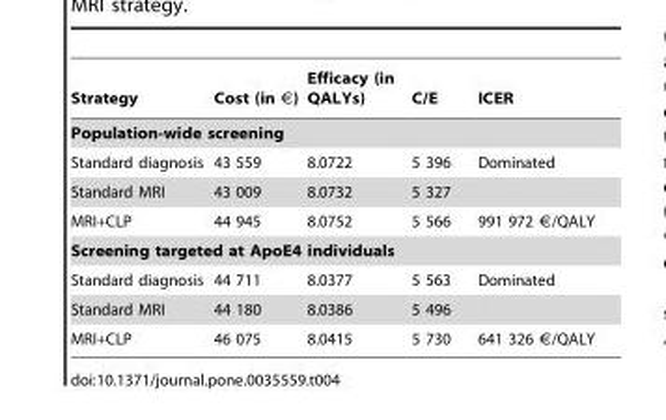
<table><thead><tr><td>Strategy</td><td>Cost (in €)</td><td>Efficacy (in QALYs)</td><td>C/E</td><td>ICER</td></tr></thead><tbody><tr><td colspan="5">Population-wide screening</td></tr><tr><td>Standard diagnosis</td><td>43 559</td><td>8.0722</td><td>5 396</td><td>Dominated</td></tr><tr><td>Standard MRI</td><td>43 009</td><td>8.0732</td><td>5 327</td><td></td></tr><tr><td>MRI+CLP</td><td>44 945</td><td>8.0752</td><td>5 566</td><td>991 972 €/QALY</td></tr><tr><td colspan="5">Screening targeted at ApoE4 individuals</td></tr><tr><td>Standard diagnosis</td><td>44 711</td><td>8.0377</td><td>5 563</td><td>Dominated</td></tr><tr><td>Standard MRI</td><td>44 180</td><td>8.0386</td><td>5 496</td><td></td></tr><tr><td>MRI+CLP</td><td>46 075</td><td>8.0415</td><td>5 730</td><td>641 326 €/QALY</td></tr></tbody></table>